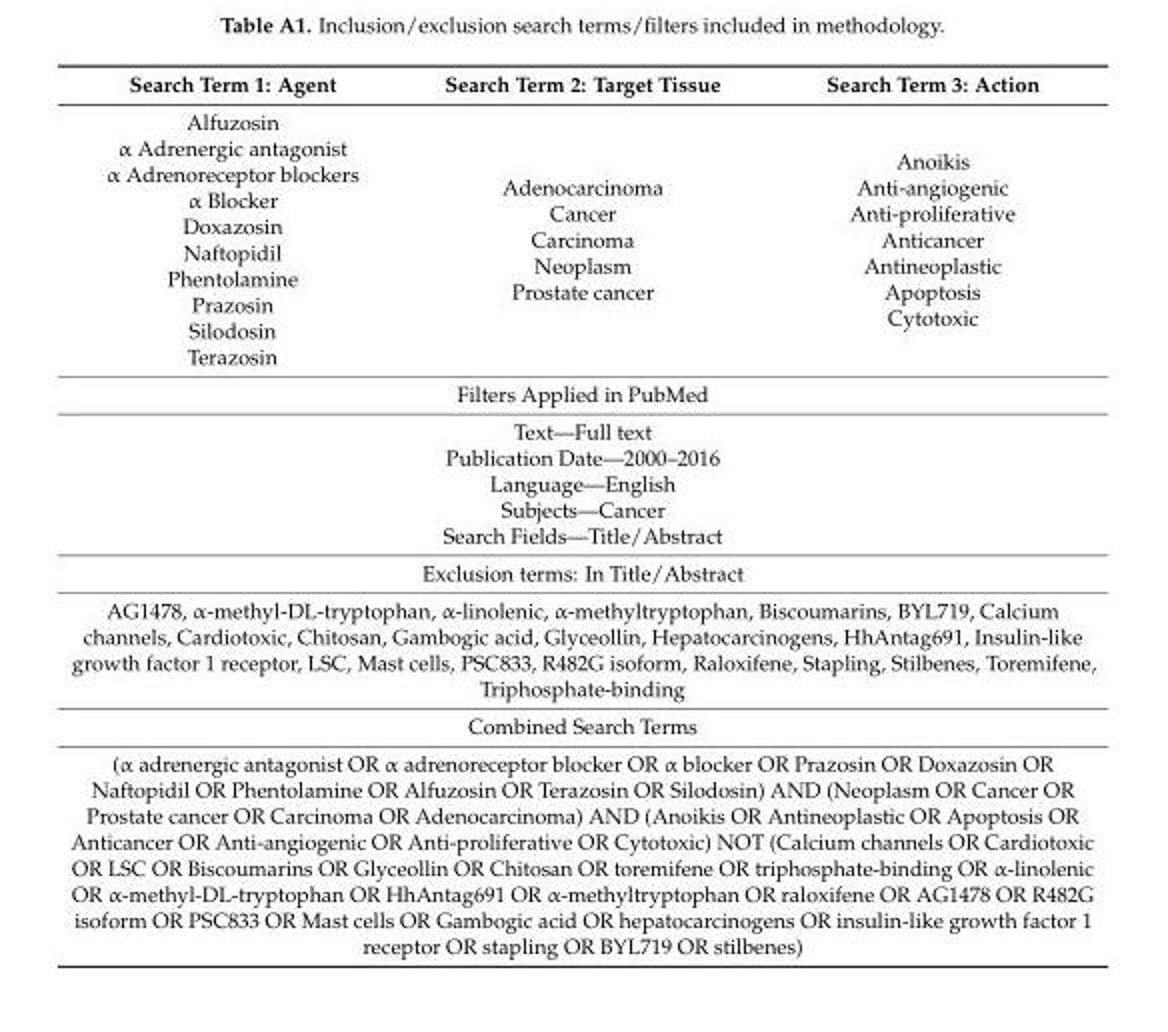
<table><thead><tr><td>Search Term 1: Agent</td><td>Search Term 2: Target Tissue</td><td>Search Term 3: Action</td></tr></thead><tbody><tr><td>Alfuzosin α Adrenergic antagonist α Adrenoreceptor blockers α Blocker Doxazosin Naftopidil Phentolamine Prazosin Silodosin Terazosin</td><td>Adenocarcinoma Cancer Carcinoma Neoplasm Prostate cancer</td><td>Anoikis Anti-angiogenic Anti-proliferative Anticancer Antineoplastic Apoptosis Cytotoxic</td></tr><tr><td colspan="3">Filters Applied in PubMed</td></tr><tr><td colspan="3">Text—Full text Publication Date—2000–2016 Language—English Subjects—Cancer Search Fields—Title/Abstract</td></tr><tr><td colspan="3">Exclusion terms: In Title/Abstract</td></tr><tr><td colspan="3">AG1478, α-methyl-DL-tryptophan, α-linolenic, α-methyltryptophan, Biscoumarins, BYL719, Calcium channels, Cardiotoxic, Chitosan, Gambogic acid, Glyceollin, Hepatocarcinogens, HhAntag691, Insulin-like growth factor 1 receptor, LSC, Mast cells, PSC833, R482G isoform, Raloxifene, Stapling, Stilbenes, Toremifene, Triphosphate-binding</td></tr><tr><td colspan="3">Combined Search Terms</td></tr><tr><td colspan="3">(α adrenergic antagonist OR α adrenoreceptor blocker OR α blocker OR Prazosin OR Doxazosin OR Naftopidil OR Phentolamine OR Alfuzosin OR Terazosin OR Silodosin) AND (Neoplasm OR Cancer OR Prostate cancer OR Carcinoma OR Adenocarcinoma) AND (Anoikis OR Antineoplastic OR Apoptosis OR Anticancer OR Anti-angiogenic OR Anti-proliferative OR Cytotoxic) NOT (Calcium channels OR Cardiotoxic OR LSC OR Biscoumarins OR Glyceollin OR Chitosan OR toremifene OR triphosphate-binding OR α-linolenic OR α-methyl-DL-tryptophan OR HhAntag691 OR α-methyltryptophan OR raloxifene OR AG1478 OR R482G isoform OR PSC833 OR Mast cells OR Gambogic acid OR hepatocarcinogens OR insulin-like growth factor 1 receptor OR stapling OR BYL719 OR stilbenes)</td></tr></tbody></table>